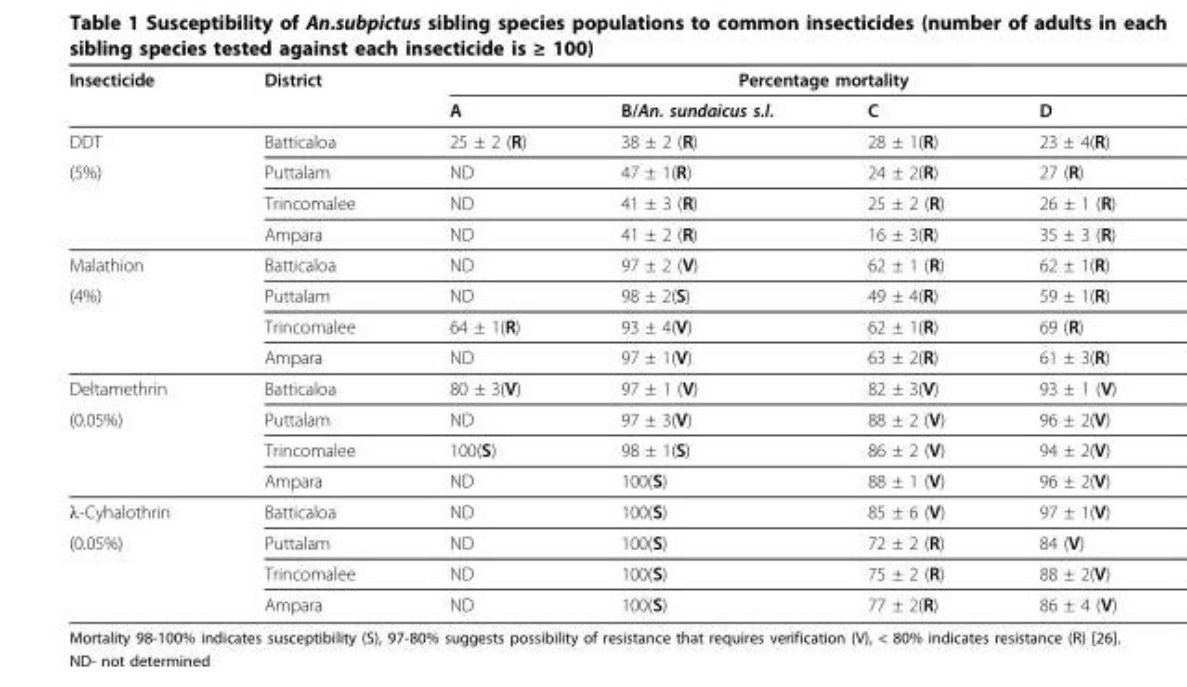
<table><thead><tr><td rowspan="2">Insecticide</td><td rowspan="2">District</td><td colspan="4">Percentage mortality</td></tr><tr><td>A</td><td>B/An. sundaicus s.l.</td><td>C</td><td>D</td></tr></thead><tbody><tr><td>DDT</td><td>Batticaloa</td><td>25 ± 2 (R)</td><td>38 ± 2 (R)</td><td>28 ± 1(R)</td><td>23 ± 4(R)</td></tr><tr><td rowspan="3">(5%)</td><td>Puttalam</td><td>ND</td><td>47 ± 1(R)</td><td>24 ± 2(R)</td><td>27 (R)</td></tr><tr><td>Trincomalee</td><td>ND</td><td>41 ± 3 (R)</td><td>25 ± 2 (R)</td><td>26 ± 1 (R)</td></tr><tr><td>Ampara</td><td>ND</td><td>41 ± 2 (R)</td><td>16 ± 3(R)</td><td>35 ± 3 (R)</td></tr><tr><td>Malathion</td><td>Batticaloa</td><td>ND</td><td>97 ± 2 (V)</td><td>62 ± 1 (R)</td><td>62 ± 1(R)</td></tr><tr><td rowspan="3">(4%)</td><td>Puttalam</td><td>ND</td><td>98 ± 2(S)</td><td>49 ± 4(R)</td><td>59 ± 1(R)</td></tr><tr><td>Trincomalee</td><td>64 ± 1(R)</td><td>93 ± 4(V)</td><td>62 ± 1(R)</td><td>69 (R)</td></tr><tr><td>Ampara</td><td>ND</td><td>97 ± 1(V)</td><td>63 ± 2(R)</td><td>61 ± 3(R)</td></tr><tr><td>Deltamethrin</td><td>Batticaloa</td><td>80 ± 3(V)</td><td>97 ± 1 (V)</td><td>82 ± 3(V)</td><td>93 ± 1 (V)</td></tr><tr><td rowspan="3">(0.05%)</td><td>Puttalam</td><td>ND</td><td>97 ± 3(V)</td><td>88 ± 2 (V)</td><td>96 ± 2(V)</td></tr><tr><td>Trincomalee</td><td>100(S)</td><td>98 ± 1(S)</td><td>86 ± 2 (V)</td><td>94 ± 2(V)</td></tr><tr><td>Ampara</td><td>ND</td><td>100(S)</td><td>88 ± 1 (V)</td><td>96 ± 2(V)</td></tr><tr><td>λ-Cyhalothrin</td><td>Batticaloa</td><td>ND</td><td>100(S)</td><td>85 ± 6 (V)</td><td>97 ± 1(V)</td></tr><tr><td rowspan="3">(0.05%)</td><td>Puttalam</td><td>ND</td><td>100(S)</td><td>72 ± 2 (R)</td><td>84 (V)</td></tr><tr><td>Trincomalee</td><td>ND</td><td>100(S)</td><td>75 ± 2 (R)</td><td>88 ± 2(V)</td></tr><tr><td>Ampara</td><td>ND</td><td>100(S)</td><td>77 ± 2(R)</td><td>86 ± 4 (V)</td></tr></tbody></table>